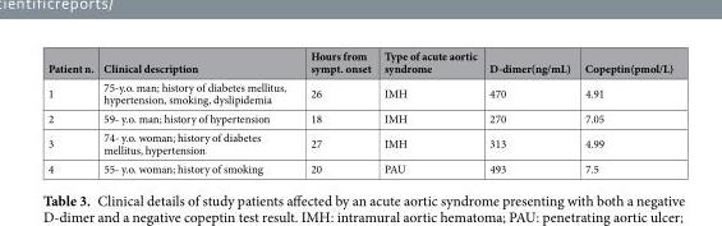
<table><thead><tr><td>Patient n.</td><td>Clinical description</td><td>Hours from sympt. onset</td><td>Type of acute aortic syndrome</td><td>D-dimer(ng/mL)</td><td>Copeptin(pmol/L)</td></tr></thead><tbody><tr><td>1</td><td>75-y.o. man; history of diabetes mellitus, hypertension, smoking, dyslipidemia</td><td>26</td><td>IMH</td><td>470</td><td>4.91</td></tr><tr><td>2</td><td>59- y.o. man; history of hypertension</td><td>18</td><td>IMH</td><td>270</td><td>7.05</td></tr><tr><td>3</td><td>74- y.o. woman; history of diabetes mellitus, hypertension</td><td>27</td><td>IMH</td><td>313</td><td>4.99</td></tr><tr><td>4</td><td>55- y.o. woman; history of smoking</td><td>20</td><td>PAU</td><td>493</td><td>7.5</td></tr></tbody></table>